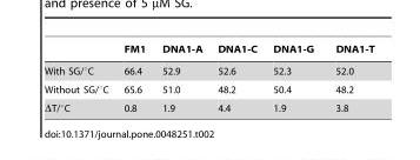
<table><thead><tr><td></td><td>FM1</td><td>DNA1-A</td><td>DNA1-C</td><td>DNA1-G</td><td>DNA1-T</td></tr></thead><tbody><tr><td>With SG/°C</td><td>66.4</td><td>52.9</td><td>52.6</td><td>52.3</td><td>52.0</td></tr><tr><td>Without SG/°C</td><td>65.6</td><td>51.0</td><td>48.2</td><td>50.4</td><td>48.2</td></tr><tr><td>ΔT/°C</td><td>0.8</td><td>1.9</td><td>4.4</td><td>1.9</td><td>3.8</td></tr></tbody></table>